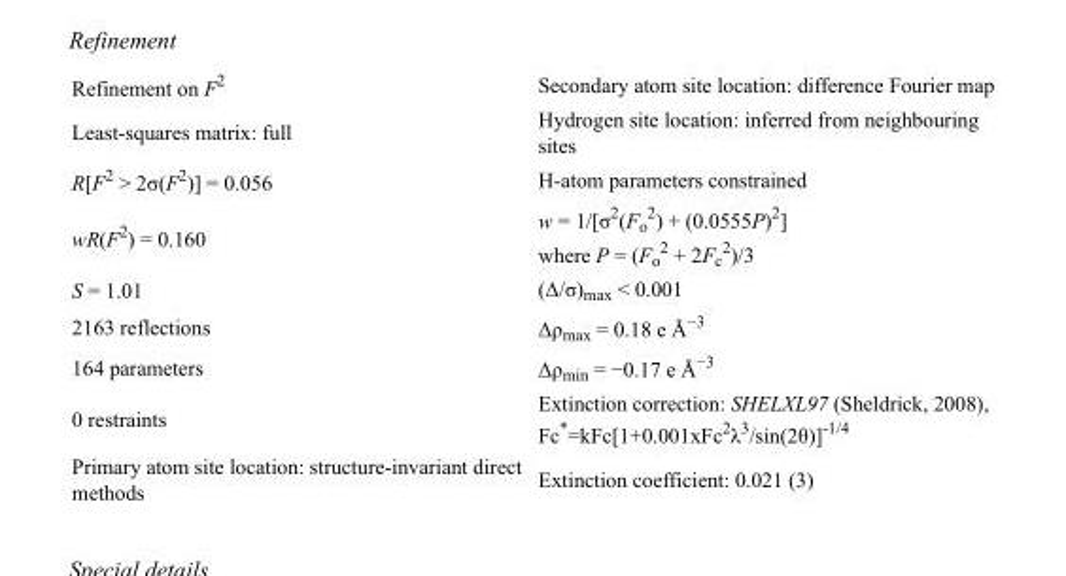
<table><tbody><tr><td>Refinement on F<sup>2</sup></td><td>Secondary atom site location: difference Fourier map</td></tr><tr><td>Least-squares matrix: full</td><td>Hydrogen site location: inferred from neighbouring sites</td></tr><tr><td>R[F<sup>2</sup> &gt; 2σ(F<sup>2</sup>)] = 0.056</td><td>H-atom parameters constrained</td></tr><tr><td>wR(F<sup>2</sup>) = 0.160</td><td>w = 1/[σ<sup>2</sup>(F<sub>o</sub> <sup>2</sup>) + (0.0555P)<sup>2</sup>] where P = (F<sub>o</sub> <sup>2</sup> + 2F<sub>c</sub> <sup>2</sup>)/3</td></tr><tr><td>S = 1.01</td><td>(Δ/σ)<sub>max</sub> &lt; 0.001</td></tr><tr><td>2163 reflections</td><td>Δρ<sub>max</sub> = 0.18 e Å<sup>−3</sup></td></tr><tr><td>164 parameters</td><td>Δρ<sub>min</sub> = −0.17 e Å<sup>−3</sup></td></tr><tr><td>0 restraints</td><td>Extinction correction: SHELXL97 (Sheldrick, 2008), Fc*=kFc[1+0.001xFc<sup>2</sup>λ<sup>3</sup>/sin(2θ)]<sup>-1/4</sup></td></tr><tr><td>Primary atom site location: structure-invariant direct methods</td><td>Extinction coefficient: 0.021 (3)</td></tr></tbody></table>